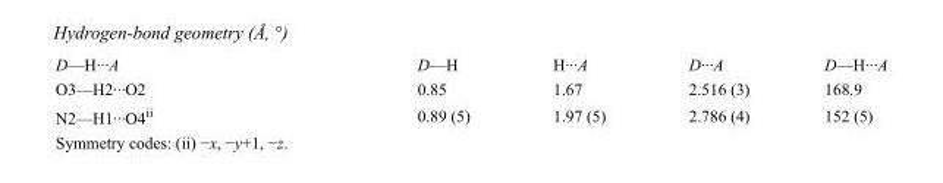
<table><tbody><tr><td>D—H···A</td><td>D—H</td><td>H···A</td><td>D···A</td><td>D—H···A</td></tr><tr><td>O3—H2···O2</td><td>0.85</td><td>1.67</td><td>2.516 (3)</td><td>168.9</td></tr><tr><td>N2—H1···O4<sup>ii</sup></td><td>0.89 (5)</td><td>1.97 (5)</td><td>2.786 (4)</td><td>152 (5)</td></tr></tbody></table>